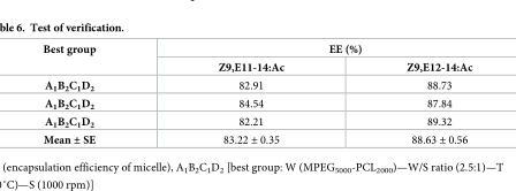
<table><thead><tr><td rowspan="2">Best group</td><td colspan="2">EE (%)</td></tr><tr><td>Z9,E11-14:Ac</td><td>Z9,E12-14:Ac</td></tr></thead><tbody><tr><td>A<sub>1</sub>B<sub>2</sub>C<sub>1</sub>D<sub>2</sub></td><td>82.91</td><td>88.73</td></tr><tr><td>A<sub>1</sub>B<sub>2</sub>C<sub>1</sub>D<sub>2</sub></td><td>84.54</td><td>87.84</td></tr><tr><td>A<sub>1</sub>B<sub>2</sub>C<sub>1</sub>D<sub>2</sub></td><td>82.21</td><td>89.32</td></tr><tr><td>Mean ± SE</td><td>83.22 ± 0.35</td><td>88.63 ± 0.56</td></tr></tbody></table>